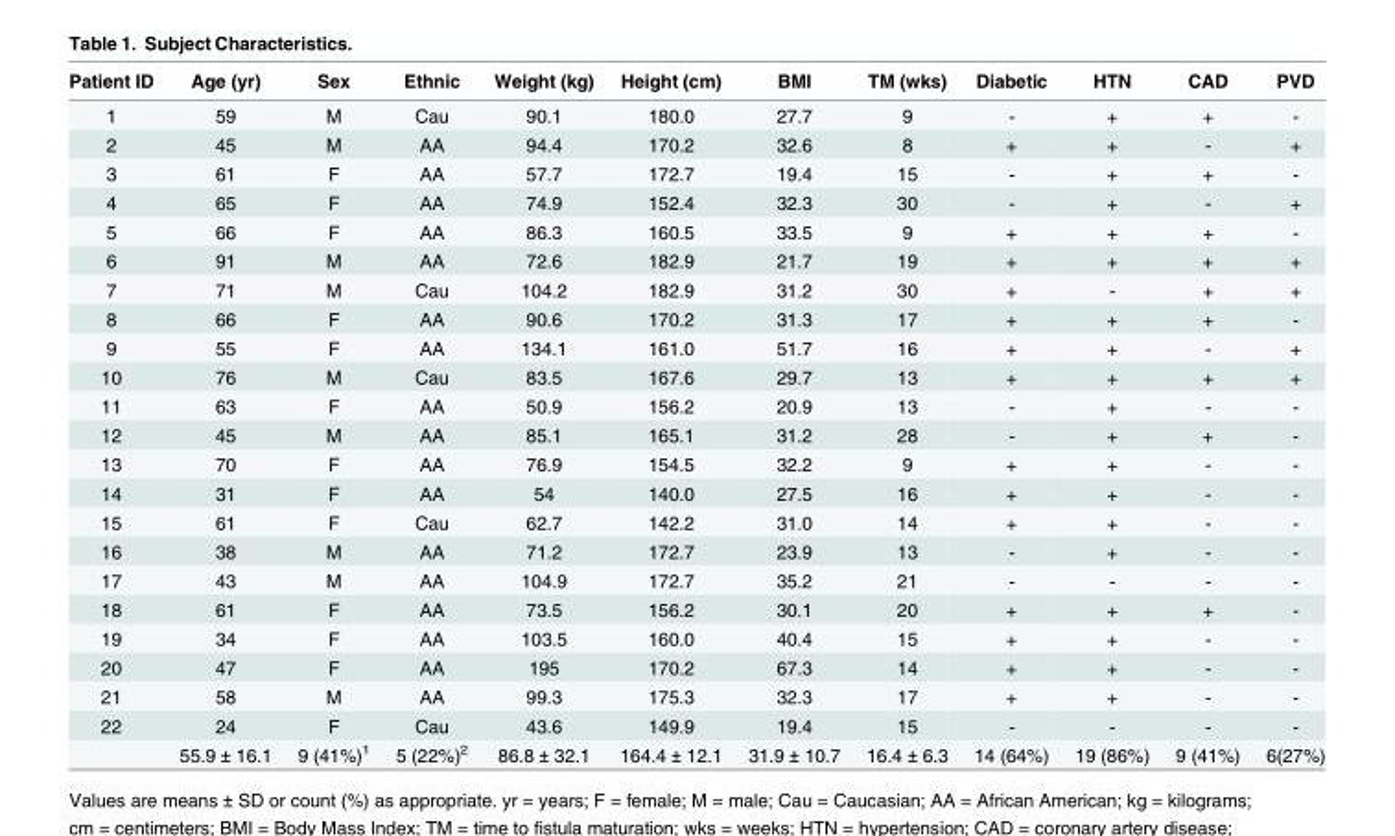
<table><thead><tr><td>Patient ID</td><td>Age (yr)</td><td>Sex</td><td>Ethnic</td><td>Weight (kg)</td><td>Height (cm)</td><td>BMI</td><td>TM (wks)</td><td>Diabetic</td><td>HTN</td><td>CAD</td><td>PVD</td></tr></thead><tbody><tr><td>1</td><td>59</td><td>M</td><td>Cau</td><td>90.1</td><td>180.0</td><td>27.7</td><td>9</td><td>-</td><td>+</td><td>+</td><td>-</td></tr><tr><td>2</td><td>45</td><td>M</td><td>AA</td><td>94.4</td><td>170.2</td><td>32.6</td><td>8</td><td>+</td><td>+</td><td>-</td><td>+</td></tr><tr><td>3</td><td>61</td><td>F</td><td>AA</td><td>57.7</td><td>172.7</td><td>19.4</td><td>15</td><td>-</td><td>+</td><td>+</td><td>-</td></tr><tr><td>4</td><td>65</td><td>F</td><td>AA</td><td>74.9</td><td>152.4</td><td>32.3</td><td>30</td><td>-</td><td>+</td><td>-</td><td>+</td></tr><tr><td>5</td><td>66</td><td>F</td><td>AA</td><td>86.3</td><td>160.5</td><td>33.5</td><td>9</td><td>+</td><td>+</td><td>+</td><td>-</td></tr><tr><td>6</td><td>91</td><td>M</td><td>AA</td><td>72.6</td><td>182.9</td><td>21.7</td><td>19</td><td>+</td><td>+</td><td>+</td><td>+</td></tr><tr><td>7</td><td>71</td><td>M</td><td>Cau</td><td>104.2</td><td>182.9</td><td>31.2</td><td>30</td><td>+</td><td>-</td><td>+</td><td>+</td></tr><tr><td>8</td><td>66</td><td>F</td><td>AA</td><td>90.6</td><td>170.2</td><td>31.3</td><td>17</td><td>+</td><td>+</td><td>+</td><td>-</td></tr><tr><td>9</td><td>55</td><td>F</td><td>AA</td><td>134.1</td><td>161.0</td><td>51.7</td><td>16</td><td>+</td><td>+</td><td>-</td><td>+</td></tr><tr><td>10</td><td>76</td><td>M</td><td>Cau</td><td>83.5</td><td>167.6</td><td>29.7</td><td>13</td><td>+</td><td>+</td><td>+</td><td>+</td></tr><tr><td>11</td><td>63</td><td>F</td><td>AA</td><td>50.9</td><td>156.2</td><td>20.9</td><td>13</td><td>-</td><td>+</td><td>-</td><td>-</td></tr><tr><td>12</td><td>45</td><td>M</td><td>AA</td><td>85.1</td><td>165.1</td><td>31.2</td><td>28</td><td>-</td><td>+</td><td>+</td><td>-</td></tr><tr><td>13</td><td>70</td><td>F</td><td>AA</td><td>76.9</td><td>154.5</td><td>32.2</td><td>9</td><td>+</td><td>+</td><td>-</td><td>-</td></tr><tr><td>14</td><td>31</td><td>F</td><td>AA</td><td>54</td><td>140.0</td><td>27.5</td><td>16</td><td>+</td><td>+</td><td>-</td><td>-</td></tr><tr><td>15</td><td>61</td><td>F</td><td>Cau</td><td>62.7</td><td>142.2</td><td>31.0</td><td>14</td><td>+</td><td>+</td><td>-</td><td>-</td></tr><tr><td>16</td><td>38</td><td>M</td><td>AA</td><td>71.2</td><td>172.7</td><td>23.9</td><td>13</td><td>-</td><td>+</td><td>-</td><td>-</td></tr><tr><td>17</td><td>43</td><td>M</td><td>AA</td><td>104.9</td><td>172.7</td><td>35.2</td><td>21</td><td>-</td><td>-</td><td>-</td><td>-</td></tr><tr><td>18</td><td>61</td><td>F</td><td>AA</td><td>73.5</td><td>156.2</td><td>30.1</td><td>20</td><td>+</td><td>+</td><td>+</td><td>-</td></tr><tr><td>19</td><td>34</td><td>F</td><td>AA</td><td>103.5</td><td>160.0</td><td>40.4</td><td>15</td><td>+</td><td>+</td><td>-</td><td>-</td></tr><tr><td>20</td><td>47</td><td>F</td><td>AA</td><td>195</td><td>170.2</td><td>67.3</td><td>14</td><td>+</td><td>+</td><td>-</td><td>-</td></tr><tr><td>21</td><td>58</td><td>M</td><td>AA</td><td>99.3</td><td>175.3</td><td>32.3</td><td>17</td><td>+</td><td>+</td><td>-</td><td>-</td></tr><tr><td rowspan="2">22</td><td>24</td><td>F</td><td>Cau</td><td>43.6</td><td>149.9</td><td>19.4</td><td>15</td><td>-</td><td>-</td><td>-</td><td>-</td></tr><tr><td>55.9 ± 16.1</td><td>9 (41%)<sup>1</sup></td><td>5 (22%)<sup>2</sup></td><td>86.8 ± 32.1</td><td>164.4 ± 12.1</td><td>31.9 ± 10.7</td><td>16.4 ± 6.3</td><td>14 (64%)</td><td>19 (86%)</td><td>9 (41%)</td><td>6(27%)</td></tr></tbody></table>